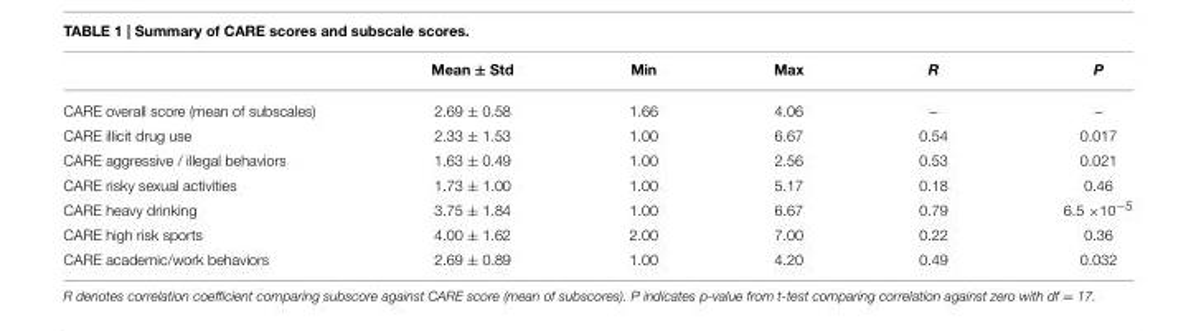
<table><thead><tr><td></td><td>Mean ± Std</td><td>Min</td><td>Max</td><td>R</td><td>P</td></tr></thead><tbody><tr><td>CARE overall score (mean of subscales)</td><td>2.69 ± 0.58</td><td>1.66</td><td>4.06</td><td>–</td><td>–</td></tr><tr><td>CARE illicit drug use</td><td>2.33 ± 1.53</td><td>1.00</td><td>6.67</td><td>0.54</td><td>0.017</td></tr><tr><td>CARE aggressive / illegal behaviors</td><td>1.63 ± 0.49</td><td>1.00</td><td>2.56</td><td>0.53</td><td>0.021</td></tr><tr><td>CARE risky sexual activities</td><td>1.73 ± 1.00</td><td>1.00</td><td>5.17</td><td>0.18</td><td>0.46</td></tr><tr><td>CARE heavy drinking</td><td>3.75 ± 1.84</td><td>1.00</td><td>6.67</td><td>0.79</td><td>6.5 ×10<sup>−5</sup></td></tr><tr><td>CARE high risk sports</td><td>4.00 ± 1.62</td><td>2.00</td><td>7.00</td><td>0.22</td><td>0.36</td></tr><tr><td>CARE academic/work behaviors</td><td>2.69 ± 0.89</td><td>1.00</td><td>4.20</td><td>0.49</td><td>0.032</td></tr></tbody></table>